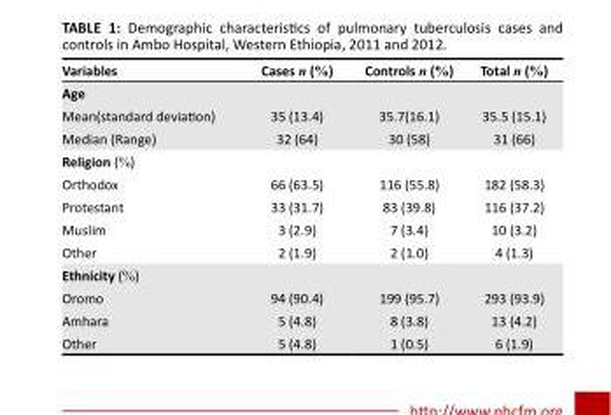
<table><thead><tr><td>Variables</td><td>Cases n (%)</td><td>Controls n (%)</td><td>Total n (%)</td></tr></thead><tbody><tr><td colspan="4">Age</td></tr><tr><td>Mean(standard deviation)</td><td>35 (13.4)</td><td>35.7(16.1)</td><td>35.5 (15.1)</td></tr><tr><td>Median (Range)</td><td>32 (64)</td><td>30 (58)</td><td>31 (66)</td></tr><tr><td colspan="4">Religion (%)</td></tr><tr><td>Orthodox</td><td>66 (63.5)</td><td>116 (55.8)</td><td>182 (58.3)</td></tr><tr><td>Protestant</td><td>33 (31.7)</td><td>83 (39.8)</td><td>116 (37.2)</td></tr><tr><td>Muslim</td><td>3 (2.9)</td><td>7 (3.4)</td><td>10 (3.2)</td></tr><tr><td>Other</td><td>2 (1.9)</td><td>2 (1.0)</td><td>4 (1.3)</td></tr><tr><td colspan="4">Ethnicity (%)</td></tr><tr><td>Oromo</td><td>94 (90.4)</td><td>199 (95.7)</td><td>293 (93.9)</td></tr><tr><td>Amhara</td><td>5 (4.8)</td><td>8 (3.8)</td><td>13 (4.2)</td></tr><tr><td>Other</td><td>5 (4.8)</td><td>1 (0.5)</td><td>6 (1.9)</td></tr></tbody></table>